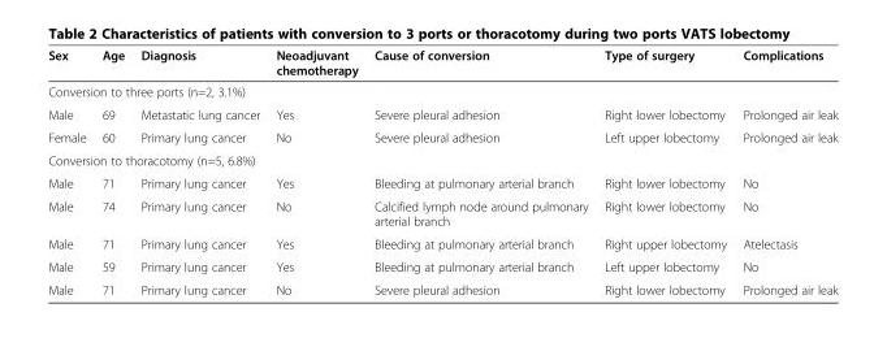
<table><thead><tr><td>Sex</td><td>Age</td><td>Diagnosis</td><td>Neoadjuvant chemotherapy</td><td>Cause of conversion</td><td>Type of surgery</td><td>Complications</td></tr></thead><tbody><tr><td colspan="7">Conversion to three ports (n=2, 3.1%)</td></tr><tr><td>Male</td><td>69</td><td>Metastatic lung cancer</td><td>Yes</td><td>Severe pleural adhesion</td><td>Right lower lobectomy</td><td>Prolonged air leak</td></tr><tr><td>Female</td><td>60</td><td>Primary lung cancer</td><td>No</td><td>Severe pleural adhesion</td><td>Left upper lobectomy</td><td>Prolonged air leak</td></tr><tr><td colspan="7">Conversion to thoracotomy (n=5, 6.8%)</td></tr><tr><td>Male</td><td>71</td><td>Primary lung cancer</td><td>Yes</td><td>Bleeding at pulmonary arterial branch</td><td>Right lower lobectomy</td><td>No</td></tr><tr><td>Male</td><td>74</td><td>Primary lung cancer</td><td>No</td><td>Calcified lymph node around pulmonary arterial branch</td><td>Right lower lobectomy</td><td>No</td></tr><tr><td>Male</td><td>71</td><td>Primary lung cancer</td><td>Yes</td><td>Bleeding at pulmonary arterial branch</td><td>Right upper lobectomy</td><td>Atelectasis</td></tr><tr><td>Male</td><td>59</td><td>Primary lung cancer</td><td>Yes</td><td>Bleeding at pulmonary arterial branch</td><td>Left upper lobectomy</td><td>No</td></tr><tr><td>Male</td><td>71</td><td>Primary lung cancer</td><td>No</td><td>Severe pleural adhesion</td><td>Right lower lobectomy</td><td>Prolonged air leak</td></tr></tbody></table>